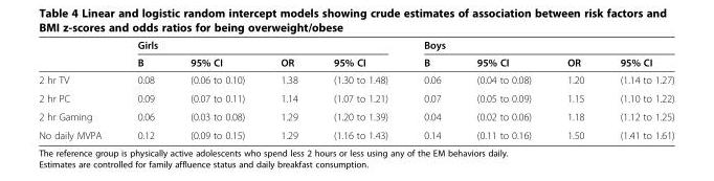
<table><thead><tr><td rowspan="2"></td><td colspan="4">Girls</td><td colspan="4">Boys</td></tr><tr><td>B</td><td>95% CI</td><td>OR</td><td>95% CI</td><td>B</td><td>95% CI</td><td>OR</td><td>95% CI</td></tr></thead><tbody><tr><td>2 hr TV</td><td>0.08</td><td>(0.06 to 0.10)</td><td>1.38</td><td>(1.30 to 1.48)</td><td>0.06</td><td>(0.04 to 0.08)</td><td>1.20</td><td>(1.14 to 1.27)</td></tr><tr><td>2 hr PC</td><td>0.09</td><td>(0.07 to 0.11)</td><td>1.14</td><td>(1.07 to 1.21)</td><td>0.07</td><td>(0.05 to 0.09)</td><td>1.15</td><td>(1.10 to 1.22)</td></tr><tr><td>2 hr Gaming</td><td>0.06</td><td>(0.03 to 0.08)</td><td>1.29</td><td>(1.20 to 1.39)</td><td>0.04</td><td>(0.02 to 0.06)</td><td>1.18</td><td>(1.12 to 1.25)</td></tr><tr><td>No daily MVPA</td><td>0.12</td><td>(0.09 to 0.15)</td><td>1.29</td><td>(1.16 to 1.43)</td><td>0.14</td><td>(0.11 to 0.16)</td><td>1.50</td><td>(1.41 to 1.61)</td></tr></tbody></table>